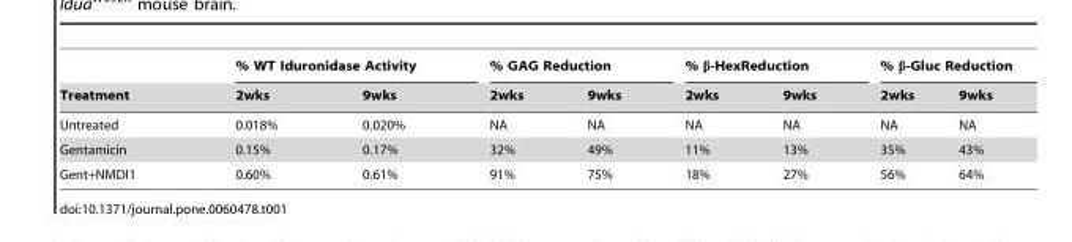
<table><thead><tr><td rowspan="2">Treatment</td><td colspan="2">% WT Iduronidase Activity</td><td colspan="2">% GAG Reduction</td><td colspan="2">% β-HexReduction</td><td colspan="2">% β-Gluc Reduction</td></tr><tr><td>2wks</td><td>9wks</td><td>2wks</td><td>9wks</td><td>2wks</td><td>9wks</td><td>2wks</td><td>9wks</td></tr></thead><tbody><tr><td>Untreated</td><td>0.018%</td><td>0.020%</td><td>NA</td><td>NA</td><td>NA</td><td>NA</td><td>NA</td><td>NA</td></tr><tr><td>Gentamicin</td><td>0.15%</td><td>0.17%</td><td>32%</td><td>49%</td><td>11%</td><td>13%</td><td>35%</td><td>43%</td></tr><tr><td>Gent+NMDI1</td><td>0.60%</td><td>0.61%</td><td>91%</td><td>75%</td><td>18%</td><td>27%</td><td>56%</td><td>64%</td></tr></tbody></table>